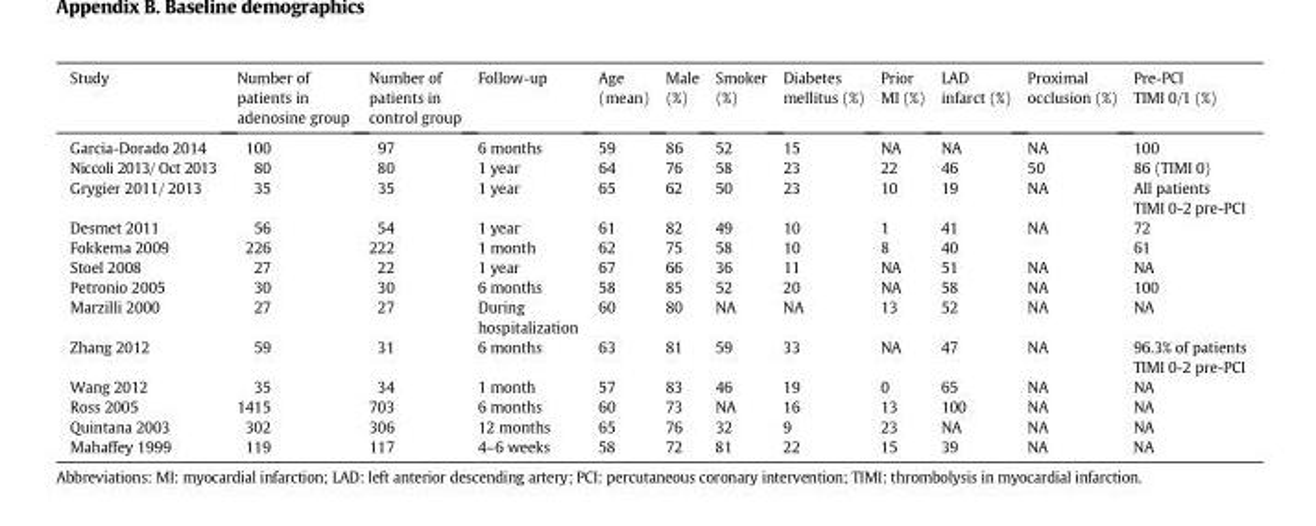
<table><thead><tr><td>Study</td><td>Number of patients in adenosine group</td><td>Number of patients in control group</td><td>Follow-up</td><td>Age (mean)</td><td>Male (%)</td><td>Smoker (%)</td><td>Diabetes mellitus (%)</td><td>Prior MI (%)</td><td>LAD infarct (%)</td><td>Proximal occlusion (%)</td><td>Pre-PCI TIMI 0/1 (%)</td></tr></thead><tbody><tr><td>Garcia-Dorado 2014</td><td>100</td><td>97</td><td>6 months</td><td>59</td><td>86</td><td>52</td><td>15</td><td>NA</td><td>NA</td><td>NA</td><td>100</td></tr><tr><td>Niccoli 2013/ Oct 2013</td><td>80</td><td>80</td><td>1 year</td><td>64</td><td>76</td><td>58</td><td>23</td><td>22</td><td>46</td><td>50</td><td>86 (TIMI 0)</td></tr><tr><td>Grygier 2011/ 2013</td><td>35</td><td>35</td><td>1 year</td><td>65</td><td>62</td><td>50</td><td>23</td><td>10</td><td>19</td><td>NA</td><td>All patients TIMI 0-2 pre-PCI</td></tr><tr><td>Desmet 2011</td><td>56</td><td>54</td><td>1 year</td><td>61</td><td>82</td><td>49</td><td>10</td><td>1</td><td>41</td><td>NA</td><td>72</td></tr><tr><td>Fokkema 2009</td><td>226</td><td>222</td><td>1 month</td><td>62</td><td>75</td><td>58</td><td>10</td><td>8</td><td>40</td><td></td><td>61</td></tr><tr><td>Stoel 2008</td><td>27</td><td>22</td><td>1 year</td><td>67</td><td>66</td><td>36</td><td>11</td><td>NA</td><td>51</td><td>NA</td><td>NA</td></tr><tr><td>Petronio 2005</td><td>30</td><td>30</td><td>6 months</td><td>58</td><td>85</td><td>52</td><td>20</td><td>NA</td><td>58</td><td>NA</td><td>100</td></tr><tr><td>Marzilli 2000</td><td>27</td><td>27</td><td>During hospitalization</td><td>60</td><td>80</td><td>NA</td><td>NA</td><td>13</td><td>52</td><td>NA</td><td>NA</td></tr><tr><td>Zhang 2012</td><td>59</td><td>31</td><td>6 months</td><td>63</td><td>81</td><td>59</td><td>33</td><td>NA</td><td>47</td><td>NA</td><td>96.3% of patients TIMI 0-2 pre-PCI</td></tr><tr><td>Wang 2012</td><td>35</td><td>34</td><td>1 month</td><td>57</td><td>83</td><td>46</td><td>19</td><td>0</td><td>65</td><td>NA</td><td>NA</td></tr><tr><td>Ross 2005</td><td>1415</td><td>703</td><td>6 months</td><td>60</td><td>73</td><td>NA</td><td>16</td><td>13</td><td>100</td><td>NA</td><td>NA</td></tr><tr><td>Quintana 2003</td><td>302</td><td>306</td><td>12 months</td><td>65</td><td>76</td><td>32</td><td>9</td><td>23</td><td>NA</td><td>NA</td><td>NA</td></tr><tr><td>Mahaffey 1999</td><td>119</td><td>117</td><td>4–6 weeks</td><td>58</td><td>72</td><td>81</td><td>22</td><td>15</td><td>39</td><td>NA</td><td>NA</td></tr></tbody></table>